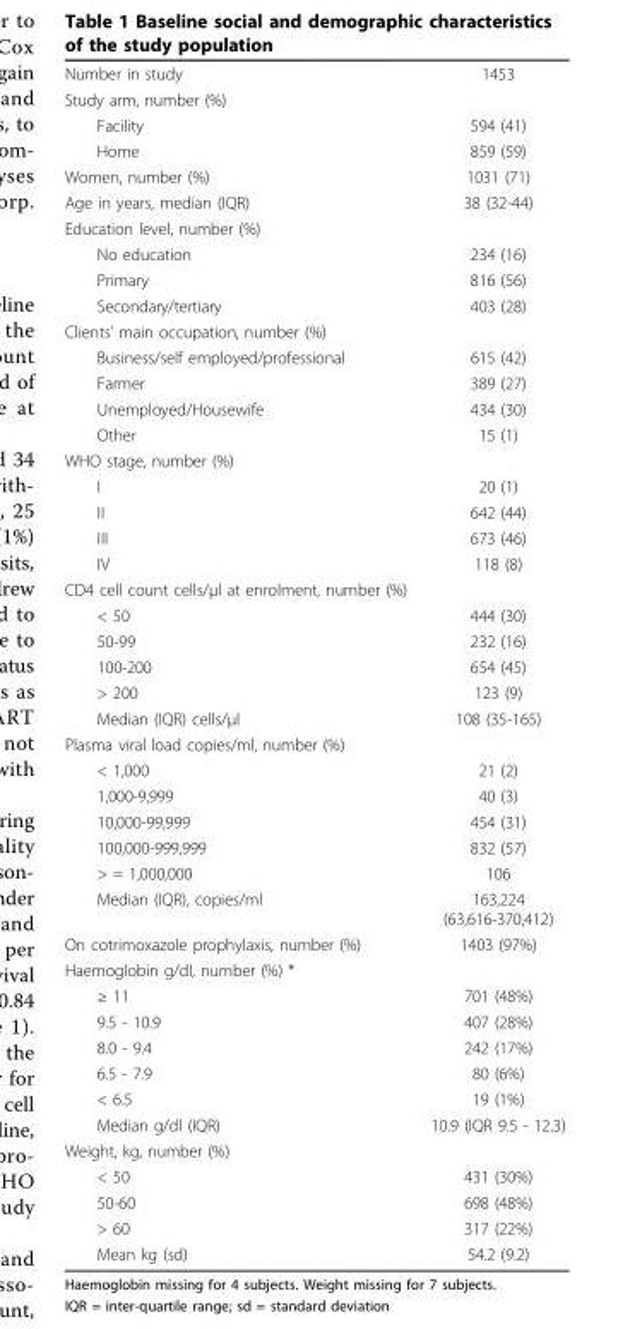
<table><tbody><tr><td>Number in study</td><td>1453</td></tr><tr><td colspan="2">Study arm, number (%)</td></tr><tr><td>Facility</td><td>594 (41)</td></tr><tr><td>Home</td><td>859 (59)</td></tr><tr><td>Women, number (%)</td><td>1031 (71)</td></tr><tr><td>Age in years, median (IQR)</td><td>38 (32-44)</td></tr><tr><td colspan="2">Education level, number (%)</td></tr><tr><td>No education</td><td>234 (16)</td></tr><tr><td>Primary</td><td>816 (56)</td></tr><tr><td>Secondary/tertiary</td><td>403 (28)</td></tr><tr><td colspan="2">Clients’ main occupation, number (%)</td></tr><tr><td>Business/self employed/professional</td><td>615 (42)</td></tr><tr><td>Farmer</td><td>389 (27)</td></tr><tr><td>Unemployed/Housewife</td><td>434 (30)</td></tr><tr><td>Other</td><td>15 (1)</td></tr><tr><td colspan="2">WHO stage, number (%)</td></tr><tr><td>I</td><td>20 (1)</td></tr><tr><td>II</td><td>642 (44)</td></tr><tr><td>III</td><td>673 (46)</td></tr><tr><td>IV</td><td>118 (8)</td></tr><tr><td colspan="2">CD4 cell count cells/μl at enrolment, number (%)</td></tr><tr><td>&lt; 50</td><td>444 (30)</td></tr><tr><td>50-99</td><td>232 (16)</td></tr><tr><td>100-200</td><td>654 (45)</td></tr><tr><td>&gt; 200</td><td>123 (9)</td></tr><tr><td>Median (IQR) cells/μl</td><td>108 (35-165)</td></tr><tr><td colspan="2">Plasma viral load copies/ml, number (%)</td></tr><tr><td>&lt; 1,000</td><td>21 (2)</td></tr><tr><td>1,000-9,999</td><td>40 (3)</td></tr><tr><td>10,000-99,999</td><td>454 (31)</td></tr><tr><td>100,000-999,999</td><td>832 (57)</td></tr><tr><td>&gt; = 1,000,000</td><td>106</td></tr><tr><td>Median (IQR), copies/ml</td><td>163,224 (63,616-370,412)</td></tr><tr><td>On cotrimoxazole prophylaxis, number (%)</td><td>1403 (97%)</td></tr><tr><td colspan="2">Haemoglobin g/dl, number (%) *</td></tr><tr><td>≥ 11</td><td>701 (48%)</td></tr><tr><td>9.5 - 10.9</td><td>407 (28%)</td></tr><tr><td>8.0 - 9.4</td><td>242 (17%)</td></tr><tr><td>6.5 - 7.9</td><td>80 (6%)</td></tr><tr><td>&lt; 6.5</td><td>19 (1%)</td></tr><tr><td>Median g/dl (IQR)</td><td>10.9 (IQR 9.5 - 12.3)</td></tr><tr><td colspan="2">Weight, kg, number (%)</td></tr><tr><td>&lt; 50</td><td>431 (30%)</td></tr><tr><td>50-60</td><td>698 (48%)</td></tr><tr><td>&gt; 60</td><td>317 (22%)</td></tr><tr><td>Mean kg (sd)</td><td>54.2 (9.2)</td></tr></tbody></table>